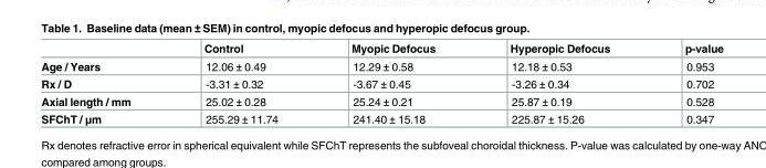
<table><thead><tr><td></td><td>Control</td><td>Myopic Defocus</td><td>Hyperopic Defocus</td><td>p-value</td></tr></thead><tbody><tr><td>Age / Years</td><td>12.06 ± 0.49</td><td>12.29 ± 0.58</td><td>12.18 ± 0.53</td><td>0.953</td></tr><tr><td>Rx / D</td><td>-3.31 ± 0.32</td><td>-3.67 ± 0.45</td><td>-3.26 ± 0.34</td><td>0.702</td></tr><tr><td>Axial length / mm</td><td>25.02 ± 0.28</td><td>25.24 ± 0.21</td><td>25.87 ± 0.19</td><td>0.528</td></tr><tr><td>SFChT / μm</td><td>255.29 ± 11.74</td><td>241.40 ± 15.18</td><td>225.87 ± 15.26</td><td>0.347</td></tr></tbody></table>